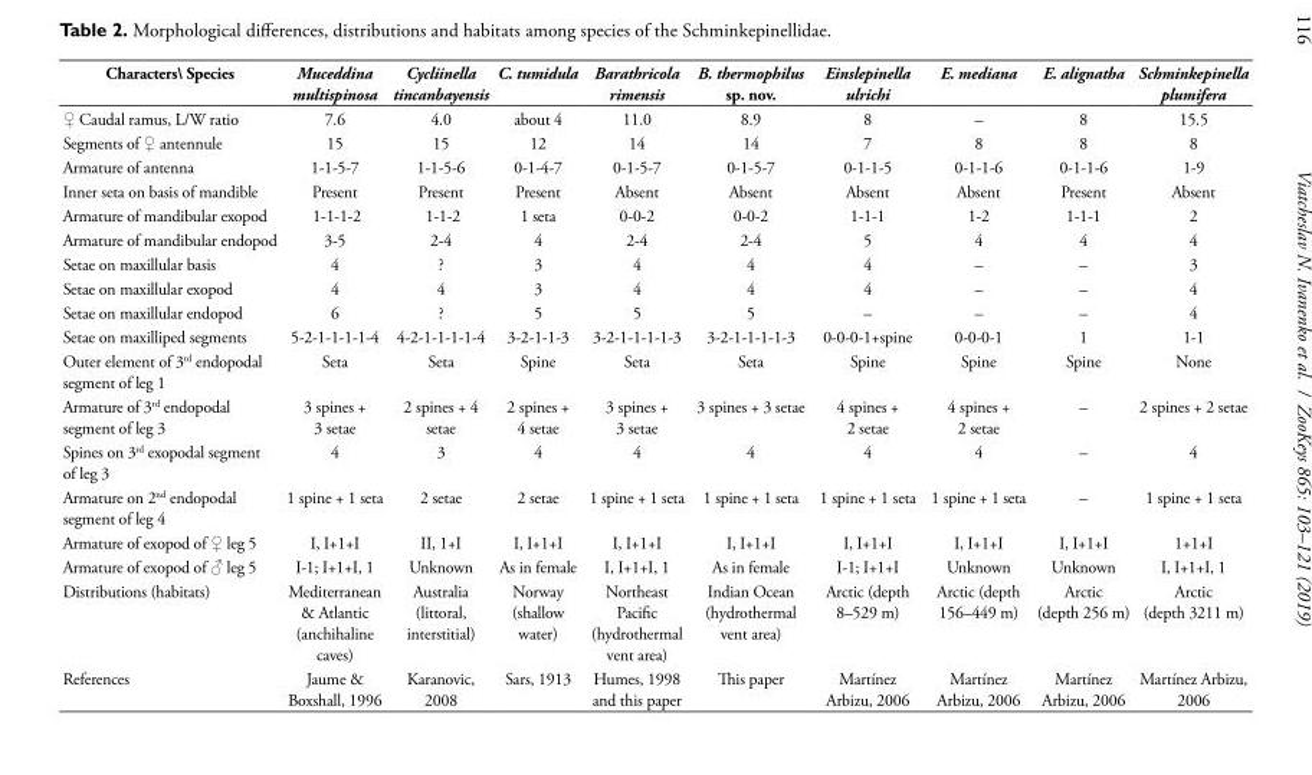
<table><thead><tr><td>Characters\ Species</td><td>Muceddina multispinosa</td><td>Cycliinella tincanbayensis</td><td>C. tumidula</td><td>Barathricola rimensis</td><td>B. thermophilus sp. nov.</td><td>Einslepinella ulrichi</td><td>E. mediana</td><td>E. alignatha</td><td>Schminkepinella plumifera</td></tr></thead><tbody><tr><td>♀ Caudal ramus, L/W ratio</td><td>7.6</td><td>4.0</td><td>about 4</td><td>11.0</td><td>8.9</td><td>8</td><td>–</td><td>8</td><td>15.5</td></tr><tr><td>Segments of ♀ antennule</td><td>15</td><td>15</td><td>12</td><td>14</td><td>14</td><td>7</td><td>8</td><td>8</td><td>8</td></tr><tr><td>Armature of antenna</td><td>1-1-5-7</td><td>1-1-5-6</td><td>0-1-4-7</td><td>0-1-5-7</td><td>0-1-5-7</td><td>0-1-1-5</td><td>0-1-1-6</td><td>0-1-1-6</td><td>1-9</td></tr><tr><td>Inner seta on basis of mandible</td><td>Present</td><td>Present</td><td>Present</td><td>Absent</td><td>Absent</td><td>Absent</td><td>Absent</td><td>Present</td><td>Absent</td></tr><tr><td>Armature of mandibular exopod</td><td>1-1-1-2</td><td>1-1-2</td><td>1 seta</td><td>0-0-2</td><td>0-0-2</td><td>1-1-1</td><td>1-2</td><td>1-1-1</td><td>2</td></tr><tr><td>Armature of mandibular endopod</td><td>3-5</td><td>2-4</td><td>4</td><td>2-4</td><td>2-4</td><td>5</td><td>4</td><td>4</td><td>4</td></tr><tr><td>Setae on maxillular basis</td><td>4</td><td>?</td><td>3</td><td>4</td><td>4</td><td>4</td><td>–</td><td>–</td><td>3</td></tr><tr><td>Setae on maxillular exopod</td><td>4</td><td>4</td><td>3</td><td>4</td><td>4</td><td>4</td><td>–</td><td>–</td><td>4</td></tr><tr><td>Setae on maxillular endopod</td><td>6</td><td>?</td><td>5</td><td>5</td><td>5</td><td>–</td><td>–</td><td>–</td><td>4</td></tr><tr><td>Setae on maxilliped segments</td><td>5-2-1-1-1-1-4</td><td>4-2-1-1-1-1-4</td><td>3-2-1-1-3</td><td>3-2-1-1-1-1-3</td><td>3-2-1-1-1-1-3</td><td>0-0-0-1+spine</td><td>0-0-0-1</td><td>1</td><td>1-1</td></tr><tr><td>Outer element of 3<sup>rd</sup> endopodal segment of leg 1</td><td>Seta</td><td>Seta</td><td>Spine</td><td>Seta</td><td>Seta</td><td>Spine</td><td>Spine</td><td>Spine</td><td>None</td></tr><tr><td>Armature of 3<sup>rd</sup> endopodal segment of leg 3</td><td>3 spines + 3 setae</td><td>2 spines + 4 setae</td><td>2 spines + 4 setae</td><td>3 spines + 3 setae</td><td>3 spines + 3 setae</td><td>4 spines + 2 setae</td><td>4 spines + 2 setae</td><td>–</td><td>2 spines + 2 setae</td></tr><tr><td>Spines on 3<sup>rd</sup> exopodal segment of leg 3</td><td>4</td><td>3</td><td>4</td><td>4</td><td>4</td><td>4</td><td>4</td><td>–</td><td>4</td></tr><tr><td>Armature on 2<sup>nd</sup> endopodal segment of leg 4</td><td>1 spine + 1 seta</td><td>2 setae</td><td>2 setae</td><td>1 spine + 1 seta</td><td>1 spine + 1 seta</td><td>1 spine + 1 seta</td><td>1 spine + 1 seta</td><td>–</td><td>1 spine + 1 seta</td></tr><tr><td>Armature of exopod of ♀ leg 5</td><td>I, I+1+I</td><td>II, 1+I</td><td>I, I+1+I</td><td>I, I+1+I</td><td>I, I+1+I</td><td>I, I+1+I</td><td>I, I+1+I</td><td>I, I+1+I</td><td>1+1+I</td></tr><tr><td>Armature of exopod of ♂ leg 5</td><td>I-1; I+1+I, 1</td><td>Unknown</td><td>As in female</td><td>I, I+1+I, 1</td><td>As in female</td><td>I-1; I+1+I</td><td>Unknown</td><td>Unknown</td><td>I, I+1+I, 1</td></tr><tr><td>Distributions (habitats)</td><td>Mediterranean &amp; Atlantic (anchihaline caves)</td><td>Australia (littoral, interstitial)</td><td>Norway (shallow water)</td><td>Northeast Pacific (hydrothermal vent area)</td><td>Indian Ocean (hydrothermal vent area)</td><td>Arctic (depth 8–529 m)</td><td>Arctic (depth 156–449 m)</td><td>Arctic (depth 256 m)</td><td>Arctic (depth 3211 m)</td></tr><tr><td>References</td><td>Jaume &amp; Boxshall, 1996</td><td>Karanovic, 2008</td><td>Sars, 1913</td><td>Humes, 1998 and this paper</td><td>This paper</td><td>Martínez Arbizu, 2006</td><td>Martínez Arbizu, 2006</td><td>Martínez Arbizu, 2006</td><td>Martínez Arbizu, 2006</td></tr></tbody></table>